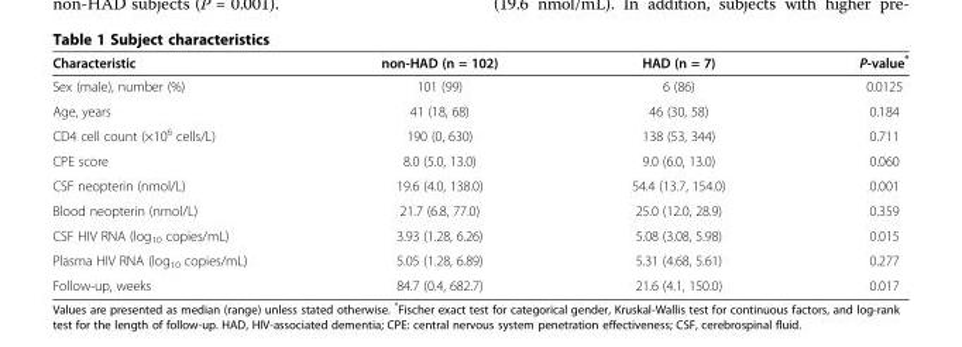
<table><thead><tr><td>Characteristic</td><td>non-HAD (n = 102)</td><td>HAD (n = 7)</td><td>P-value*</td></tr></thead><tbody><tr><td>Sex (male), number (%)</td><td>101 (99)</td><td>6 (86)</td><td>0.0125</td></tr><tr><td>Age, years</td><td>41 (18, 68)</td><td>46 (30, 58)</td><td>0.184</td></tr><tr><td>CD4 cell count (×10<sup>6</sup> cells/L)</td><td>190 (0, 630)</td><td>138 (53, 344)</td><td>0.711</td></tr><tr><td>CPE score</td><td>8.0 (5.0, 13.0)</td><td>9.0 (6.0, 13.0)</td><td>0.060</td></tr><tr><td>CSF neopterin (nmol/L)</td><td>19.6 (4.0, 138.0)</td><td>54.4 (13.7, 154.0)</td><td>0.001</td></tr><tr><td>Blood neopterin (nmol/L)</td><td>21.7 (6.8, 77.0)</td><td>25.0 (12.0, 28.9)</td><td>0.359</td></tr><tr><td>CSF HIV RNA (log<sub>10</sub> copies/mL)</td><td>3.93 (1.28, 6.26)</td><td>5.08 (3.08, 5.98)</td><td>0.015</td></tr><tr><td>Plasma HIV RNA (log<sub>10</sub> copies/mL)</td><td>5.05 (1.28, 6.89)</td><td>5.31 (4.68, 5.61)</td><td>0.277</td></tr><tr><td>Follow-up, weeks</td><td>84.7 (0.4, 682.7)</td><td>21.6 (4.1, 150.0)</td><td>0.017</td></tr></tbody></table>